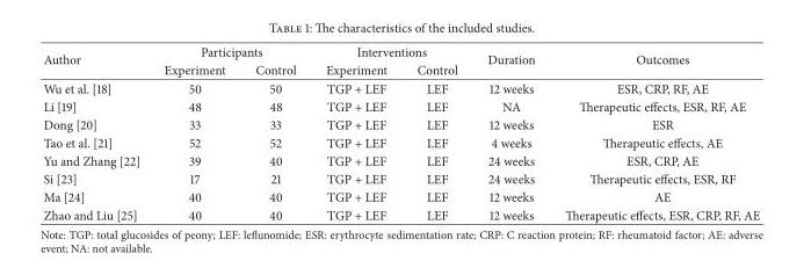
<table><thead><tr><td rowspan="2">Author</td><td colspan="2">Participants</td><td colspan="2">Interventions</td><td rowspan="2">Duration</td><td rowspan="2">Outcomes</td></tr><tr><td>Experiment</td><td>Control</td><td>Experiment</td><td>Control</td></tr></thead><tbody><tr><td>Wu et al. [18]</td><td>50</td><td>50</td><td>TGP + LEF</td><td>LEF</td><td>12 weeks</td><td>ESR, CRP, RF, AE</td></tr><tr><td>Li [19]</td><td>48</td><td>48</td><td>TGP + LEF</td><td>LEF</td><td>NA</td><td>Therapeutic effects, ESR, RF, AE</td></tr><tr><td>Dong [20]</td><td>33</td><td>33</td><td>TGP + LEF</td><td>LEF</td><td>12 weeks</td><td>ESR</td></tr><tr><td>Tao et al. [21]</td><td>52</td><td>52</td><td>TGP + LEF</td><td>LEF</td><td>4 weeks</td><td>Therapeutic effects, AE</td></tr><tr><td>Yu and Zhang [22]</td><td>39</td><td>40</td><td>TGP + LEF</td><td>LEF</td><td>24 weeks</td><td>ESR, CRP, AE</td></tr><tr><td>Si [23]</td><td>17</td><td>21</td><td>TGP + LEF</td><td>LEF</td><td>24 weeks</td><td>Therapeutic effects, ESR, RF</td></tr><tr><td>Ma [24]</td><td>40</td><td>40</td><td>TGP + LEF</td><td>LEF</td><td>12 weeks</td><td>AE</td></tr><tr><td>Zhao and Liu [25]</td><td>40</td><td>40</td><td>TGP + LEF</td><td>LEF</td><td>12 weeks</td><td>Therapeutic effects, ESR, CRP, RF, AE</td></tr></tbody></table>